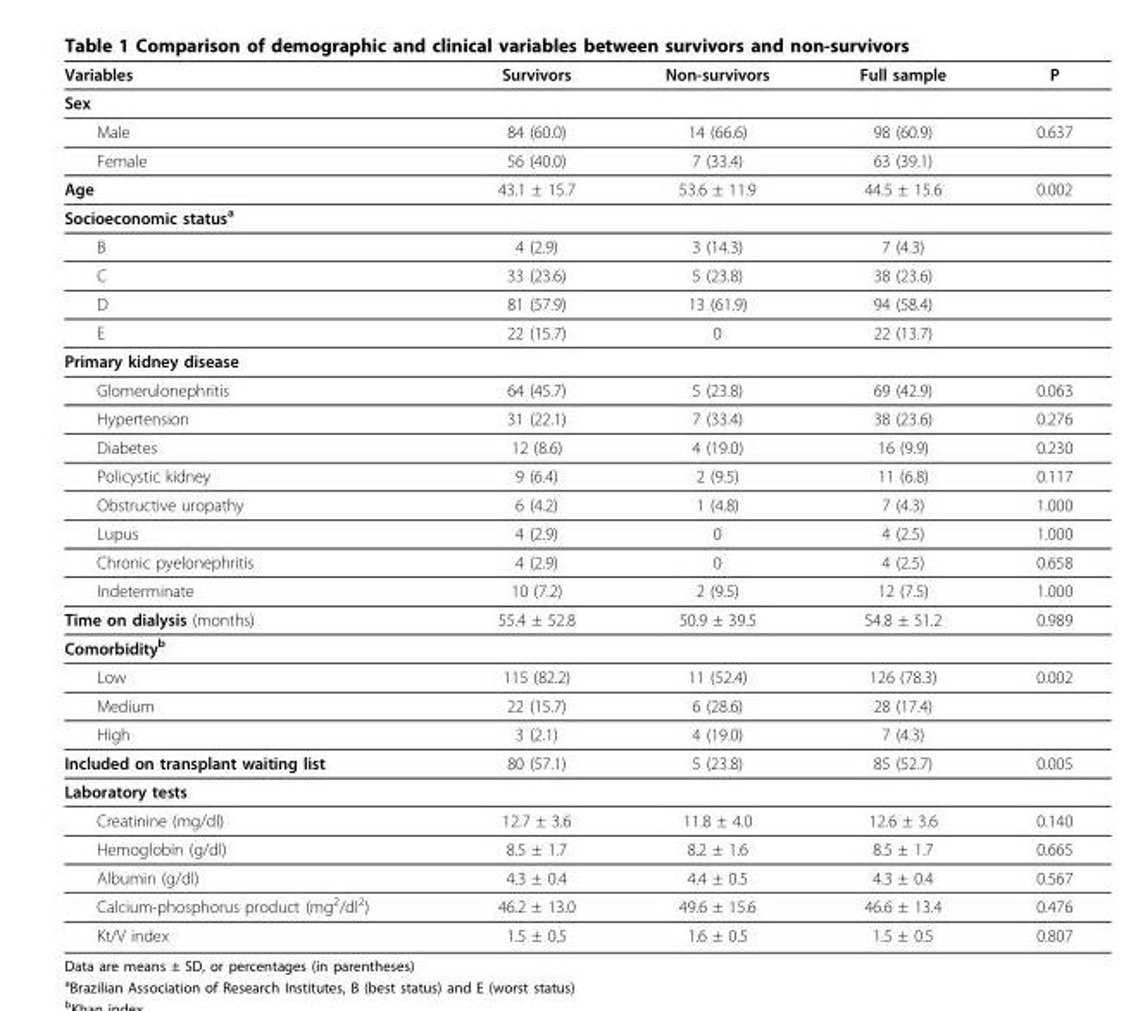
<table><thead><tr><td>Variables</td><td>Survivors</td><td>Non-survivors</td><td>Full sample</td><td>P</td></tr></thead><tbody><tr><td colspan="5">Sex</td></tr><tr><td>Male</td><td>84 (60.0)</td><td>14 (66.6)</td><td>98 (60.9)</td><td>0.637</td></tr><tr><td>Female</td><td>56 (40.0)</td><td>7 (33.4)</td><td>63 (39.1)</td><td></td></tr><tr><td>Age</td><td>43.1 ± 15.7</td><td>53.6 ± 11.9</td><td>44.5 ± 15.6</td><td>0.002</td></tr><tr><td colspan="5">Socioeconomic status<sup>a</sup></td></tr><tr><td>B</td><td>4 (2.9)</td><td>3 (14.3)</td><td>7 (4.3)</td><td></td></tr><tr><td>C</td><td>33 (23.6)</td><td>5 (23.8)</td><td>38 (23.6)</td><td></td></tr><tr><td>D</td><td>81 (57.9)</td><td>13 (61.9)</td><td>94 (58.4)</td><td></td></tr><tr><td>E</td><td>22 (15.7)</td><td>0</td><td>22 (13.7)</td><td></td></tr><tr><td colspan="5">Primary kidney disease</td></tr><tr><td>Glomerulonephritis</td><td>64 (45.7)</td><td>5 (23.8)</td><td>69 (42.9)</td><td>0.063</td></tr><tr><td>Hypertension</td><td>31 (22.1)</td><td>7 (33.4)</td><td>38 (23.6)</td><td>0.276</td></tr><tr><td>Diabetes</td><td>12 (8.6)</td><td>4 (19.0)</td><td>16 (9.9)</td><td>0.230</td></tr><tr><td>Policystic kidney</td><td>9 (6.4)</td><td>2 (9.5)</td><td>11 (6.8)</td><td>0.117</td></tr><tr><td>Obstructive uropathy</td><td>6 (4.2)</td><td>1 (4.8)</td><td>7 (4.3)</td><td>1.000</td></tr><tr><td>Lupus</td><td>4 (2.9)</td><td>0</td><td>4 (2.5)</td><td>1.000</td></tr><tr><td>Chronic pyelonephritis</td><td>4 (2.9)</td><td>0</td><td>4 (2.5)</td><td>0.658</td></tr><tr><td>Indeterminate</td><td>10 (7.2)</td><td>2 (9.5)</td><td>12 (7.5)</td><td>1.000</td></tr><tr><td>Time on dialysis (months)</td><td>55.4 ± 52.8</td><td>50.9 ± 39.5</td><td>54.8 ± 51.2</td><td>0.989</td></tr><tr><td colspan="5">Comorbidity<sup>b</sup></td></tr><tr><td>Low</td><td>115 (82.2)</td><td>11 (52.4)</td><td>126 (78.3)</td><td>0.002</td></tr><tr><td>Medium</td><td>22 (15.7)</td><td>6 (28.6)</td><td>28 (17.4)</td><td></td></tr><tr><td>High</td><td>3 (2.1)</td><td>4 (19.0)</td><td>7 (4.3)</td><td></td></tr><tr><td>Included on transplant waiting list</td><td>80 (57.1)</td><td>5 (23.8)</td><td>85 (52.7)</td><td>0.005</td></tr><tr><td colspan="5">Laboratory tests</td></tr><tr><td>Creatinine (mg/dl)</td><td>12.7 ± 3.6</td><td>11.8 ± 4.0</td><td>12.6 ± 3.6</td><td>0.140</td></tr><tr><td>Hemoglobin (g/dl)</td><td>8.5 ± 1.7</td><td>8.2 ± 1.6</td><td>8.5 ± 1.7</td><td>0.665</td></tr><tr><td>Albumin (g/dl)</td><td>4.3 ± 0.4</td><td>4.4 ± 0.5</td><td>4.3 ± 0.4</td><td>0.567</td></tr><tr><td>Calcium-phosphorus product (mg<sup>2</sup>/dl<sup>2</sup>)</td><td>46.2 ± 13.0</td><td>49.6 ± 15.6</td><td>46.6 ± 13.4</td><td>0.476</td></tr><tr><td>Kt/V index</td><td>1.5 ± 0.5</td><td>1.6 ± 0.5</td><td>1.5 ± 0.5</td><td>0.807</td></tr></tbody></table>